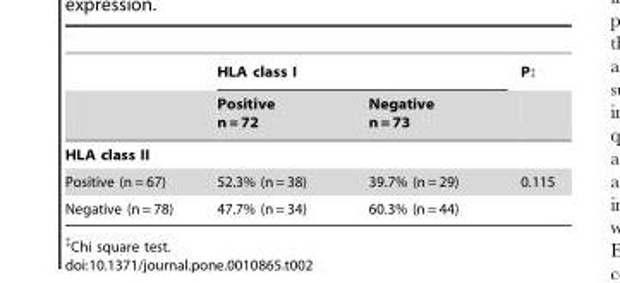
<table><thead><tr><td rowspan="2"></td><td colspan="2">HLA class I</td><td rowspan="2">P‡</td></tr><tr><td>Positive n = 72</td><td>Negative n = 73</td></tr></thead><tbody><tr><td colspan="4">HLA class II</td></tr><tr><td>Positive (n = 67)</td><td>52.3% (n = 38)</td><td>39.7% (n = 29)</td><td>0.115</td></tr><tr><td>Negative (n = 78)</td><td>47.7% (n = 34)</td><td>60.3% (n = 44)</td><td></td></tr></tbody></table>